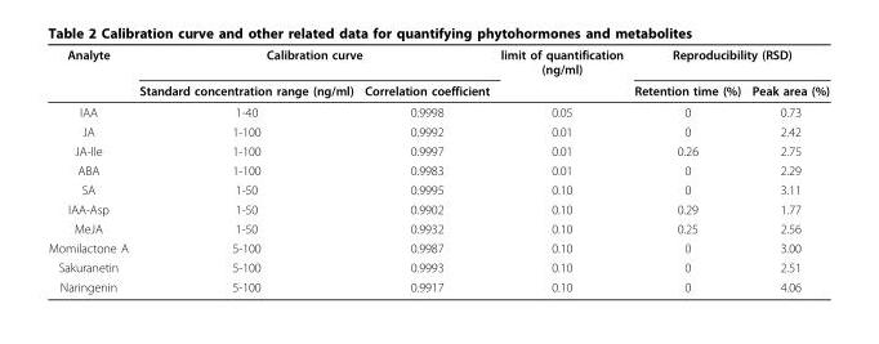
<table><thead><tr><td rowspan="2">Analyte</td><td colspan="2">Calibration curve</td><td rowspan="2">limit of quantification (ng/ml)</td><td colspan="2">Reproducibility (RSD)</td></tr><tr><td>Standard concentration range (ng/ml)</td><td>Correlation coefficient</td><td>Retention time (%)</td><td>Peak area (%)</td></tr></thead><tbody><tr><td>IAA</td><td>1-40</td><td>0.9998</td><td>0.05</td><td>0</td><td>0.73</td></tr><tr><td>JA</td><td>1-100</td><td>0.9992</td><td>0.01</td><td>0</td><td>2.42</td></tr><tr><td>JA-Ile</td><td>1-100</td><td>0.9997</td><td>0.01</td><td>0.26</td><td>2.75</td></tr><tr><td>ABA</td><td>1-100</td><td>0.9983</td><td>0.01</td><td>0</td><td>2.29</td></tr><tr><td>SA</td><td>1-50</td><td>0.9995</td><td>0.10</td><td>0</td><td>3.11</td></tr><tr><td>IAA-Asp</td><td>1-50</td><td>0.9902</td><td>0.10</td><td>0.29</td><td>1.77</td></tr><tr><td>MeJA</td><td>1-50</td><td>0.9932</td><td>0.10</td><td>0.25</td><td>2.56</td></tr><tr><td>Momilactone A</td><td>5-100</td><td>0.9987</td><td>0.10</td><td>0</td><td>3.00</td></tr><tr><td>Sakuranetin</td><td>5-100</td><td>0.9993</td><td>0.10</td><td>0</td><td>2.51</td></tr><tr><td>Naringenin</td><td>5-100</td><td>0.9917</td><td>0.10</td><td>0</td><td>4.06</td></tr></tbody></table>